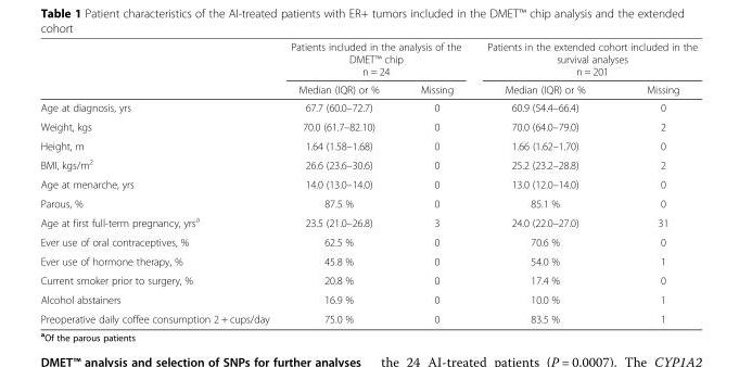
<table><thead><tr><td rowspan="3"></td><td rowspan="2" colspan="2">Patients included in the analysis of the DMET™ chip n = 24</td><td rowspan="2" colspan="2">Patients in the extended cohort included in the survival analyses n = 201</td></tr><tr></tr><tr><td>Median (IQR) or %</td><td>Missing</td><td>Median (IQR) or %</td><td>Missing</td></tr></thead><tbody><tr><td>Age at diagnosis, yrs</td><td>67.7 (60.0–72.7)</td><td>0</td><td>60.9 (54.4–66.4)</td><td>0</td></tr><tr><td>Weight, kgs</td><td>70.0 (61.7–82.10)</td><td>0</td><td>70.0 (64.0–79.0)</td><td>2</td></tr><tr><td>Height, m</td><td>1.64 (1.58–1.68)</td><td>0</td><td>1.66 (1.62–1.70)</td><td>0</td></tr><tr><td>BMI, kgs/m<sup>2</sup></td><td>26.6 (23.6–30.6)</td><td>0</td><td>25.2 (23.2–28.8)</td><td>2</td></tr><tr><td>Age at menarche, yrs</td><td>14.0 (13.0–14.0)</td><td>0</td><td>13.0 (12.0–14.0)</td><td>0</td></tr><tr><td>Parous, %</td><td>87.5 %</td><td>0</td><td>85.1 %</td><td>0</td></tr><tr><td>Age at first full-term pregnancy, yrs<sup>a</sup></td><td>23.5 (21.0–26.8)</td><td>3</td><td>24.0 (22.0–27.0)</td><td>31</td></tr><tr><td>Ever use of oral contraceptives, %</td><td>62.5 %</td><td>0</td><td>70.6 %</td><td>0</td></tr><tr><td>Ever use of hormone therapy, %</td><td>45.8 %</td><td>0</td><td>54.0 %</td><td>1</td></tr><tr><td>Current smoker prior to surgery, %</td><td>20.8 %</td><td>0</td><td>17.4 %</td><td>0</td></tr><tr><td>Alcohol abstainers</td><td>16.9 %</td><td>0</td><td>10.0 %</td><td>1</td></tr><tr><td>Preoperative daily coffee consumption 2 + cups/day</td><td>75.0 %</td><td>0</td><td>83.5 %</td><td>1</td></tr></tbody></table>